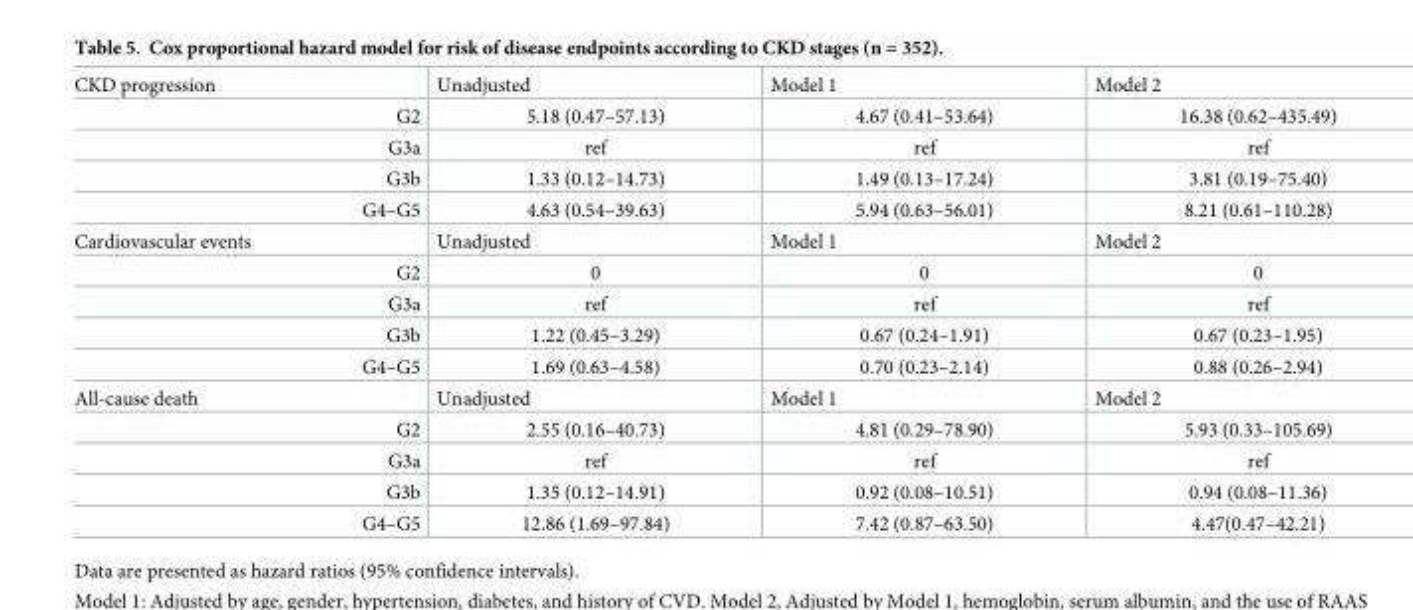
<table><tbody><tr><td>CKD progression</td><td>Unadjusted</td><td>Model 1</td><td>Model 2</td></tr><tr><td>G2</td><td>5.18 (0.47–57.13)</td><td>4.67 (0.41–53.64)</td><td>16.38 (0.62–435.49)</td></tr><tr><td>G3a</td><td>ref</td><td>ref</td><td>ref</td></tr><tr><td>G3b</td><td>1.33 (0.12–14.73)</td><td>1.49 (0.13–17.24)</td><td>3.81 (0.19–75.40)</td></tr><tr><td>G4–G5</td><td>4.63 (0.54–39.63)</td><td>5.94 (0.63–56.01)</td><td>8.21 (0.61–110.28)</td></tr><tr><td>Cardiovascular events</td><td>Unadjusted</td><td>Model 1</td><td>Model 2</td></tr><tr><td>G2</td><td>0</td><td>0</td><td>0</td></tr><tr><td>G3a</td><td>ref</td><td>ref</td><td>ref</td></tr><tr><td>G3b</td><td>1.22 (0.45–3.29)</td><td>0.67 (0.24–1.91)</td><td>0.67 (0.23–1.95)</td></tr><tr><td>G4–G5</td><td>1.69 (0.63–4.58)</td><td>0.70 (0.23–2.14)</td><td>0.88 (0.26–2.94)</td></tr><tr><td>All-cause death</td><td>Unadjusted</td><td>Model 1</td><td>Model 2</td></tr><tr><td>G2</td><td>2.55 (0.16–40.73)</td><td>4.81 (0.29–78.90)</td><td>5.93 (0.33–105.69)</td></tr><tr><td>G3a</td><td>ref</td><td>ref</td><td>ref</td></tr><tr><td>G3b</td><td>1.35 (0.12–14.91)</td><td>0.92 (0.08–10.51)</td><td>0.94 (0.08–11.36)</td></tr><tr><td>G4–G5</td><td>12.86 (1.69–97.84)</td><td>7.42 (0.87–63.50)</td><td>4.47(0.47–42.21)</td></tr></tbody></table>